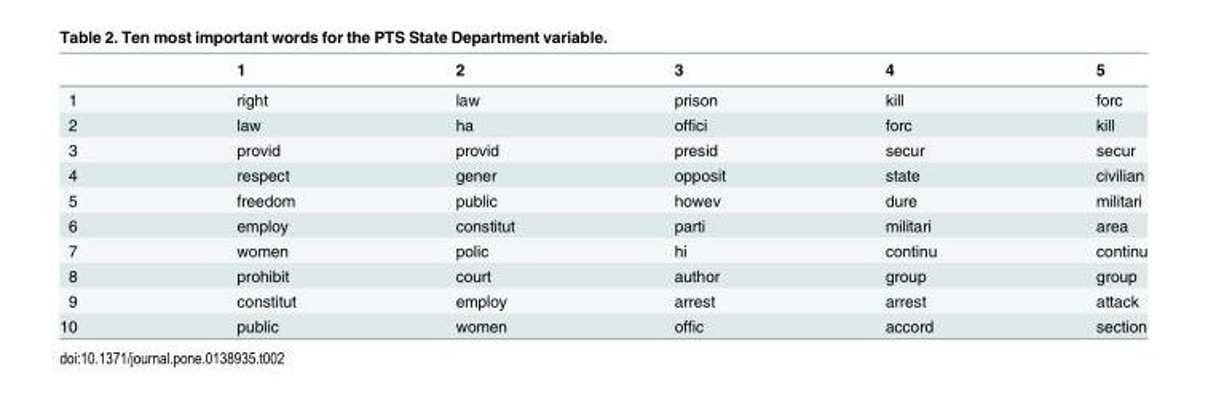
<table><thead><tr><td></td><td>1</td><td>2</td><td>3</td><td>4</td><td>5</td></tr></thead><tbody><tr><td>1</td><td>right</td><td>law</td><td>prison</td><td>kill</td><td>forc</td></tr><tr><td>2</td><td>law</td><td>ha</td><td>offici</td><td>forc</td><td>kill</td></tr><tr><td>3</td><td>provid</td><td>provid</td><td>presid</td><td>secur</td><td>secur</td></tr><tr><td>4</td><td>respect</td><td>gener</td><td>opposit</td><td>state</td><td>civilian</td></tr><tr><td>5</td><td>freedom</td><td>public</td><td>howev</td><td>dure</td><td>militari</td></tr><tr><td>6</td><td>employ</td><td>constitut</td><td>parti</td><td>militari</td><td>area</td></tr><tr><td>7</td><td>women</td><td>polic</td><td>hi</td><td>continu</td><td>continu</td></tr><tr><td>8</td><td>prohibit</td><td>court</td><td>author</td><td>group</td><td>group</td></tr><tr><td>9</td><td>constitut</td><td>employ</td><td>arrest</td><td>arrest</td><td>attack</td></tr><tr><td>10</td><td>public</td><td>women</td><td>offic</td><td>accord</td><td>section</td></tr></tbody></table>